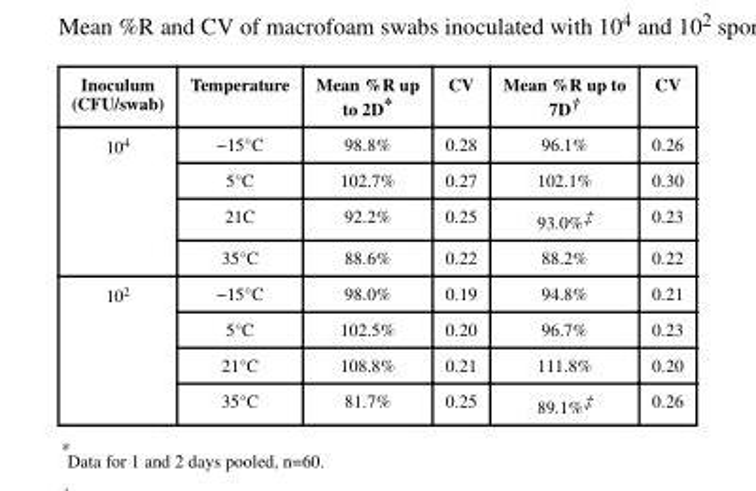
<table><thead><tr><td>Inoculum (CFU/swab)</td><td>Temperature</td><td>Mean %R up to 2D*</td><td>CV</td><td>Mean %R up to 7D†</td><td>CV</td></tr></thead><tbody><tr><td rowspan="4">10<sup>4</sup></td><td>−15°C</td><td>98.8%</td><td>0.28</td><td>96.1%</td><td>0.26</td></tr><tr><td>5°C</td><td>102.7%</td><td>0.27</td><td>102.1%</td><td>0.30</td></tr><tr><td>21C</td><td>92.2%</td><td>0.25</td><td>93.0%‡</td><td>0.23</td></tr><tr><td>35°C</td><td>88.6%</td><td>0.22</td><td>88.2%</td><td>0.22</td></tr><tr><td rowspan="4">10<sup>2</sup></td><td>−15°C</td><td>98.0%</td><td>0.19</td><td>94.8%</td><td>0.21</td></tr><tr><td>5°C</td><td>102.5%</td><td>0.20</td><td>96.7%</td><td>0.23</td></tr><tr><td>21°C</td><td>108.8%</td><td>0.21</td><td>111.8%</td><td>0.20</td></tr><tr><td>35°C</td><td>81.7%</td><td>0.25</td><td>89.1%‡</td><td>0.26</td></tr></tbody></table>